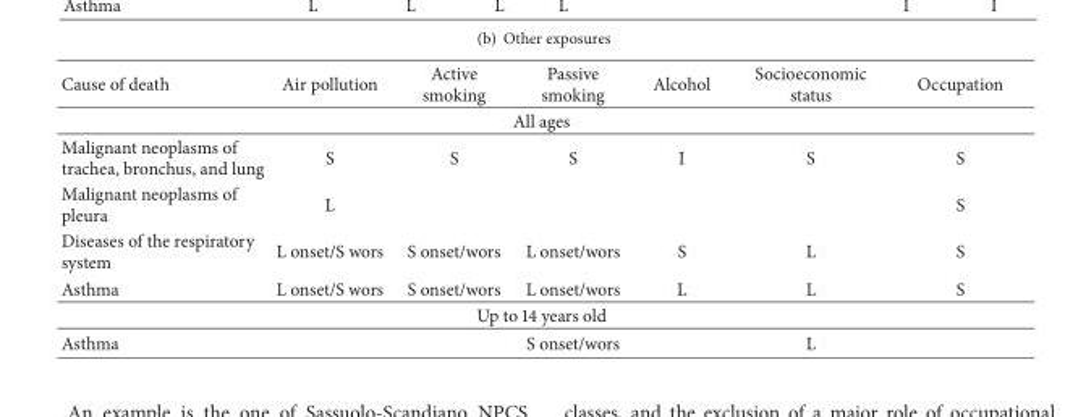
<table><thead><tr><td>Cause of death</td><td>Air pollution</td><td>Active smoking</td><td>Passive smoking</td><td>Alcohol</td><td>Socioeconomic status</td><td>Occupation</td></tr></thead><tbody><tr><td colspan="7">All ages</td></tr><tr><td>Malignant neoplasms of trachea, bronchus, and lung</td><td>S</td><td>S</td><td>S</td><td>I</td><td>S</td><td>S</td></tr><tr><td>Malignant neoplasms of pleura</td><td>L</td><td></td><td></td><td></td><td></td><td>S</td></tr><tr><td>Diseases of the respiratory system</td><td>L onset/S wors</td><td>S onset/wors</td><td>L onset/wors</td><td>S</td><td>L</td><td>S</td></tr><tr><td>Asthma</td><td>L onset/S wors</td><td>S onset/wors</td><td>L onset/wors</td><td>L</td><td>L</td><td>S</td></tr><tr><td colspan="7">Up to 14 years old</td></tr><tr><td>Asthma</td><td></td><td></td><td>S onset/wors</td><td></td><td>L</td><td></td></tr></tbody></table>